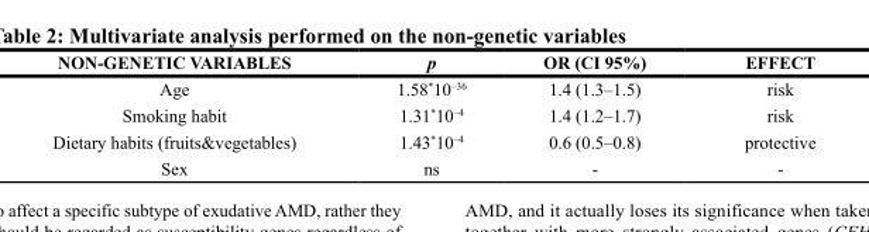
<table><thead><tr><td>NON-GENETIC VARIABLES</td><td>p</td><td>OR (CI 95%)</td><td>EFFECT</td></tr></thead><tbody><tr><td>Age</td><td>1.58*10<sup>–36</sup></td><td>1.4 (1.3–1.5)</td><td>risk</td></tr><tr><td>Smoking habit</td><td>1.31*10<sup>–4</sup></td><td>1.4 (1.2–1.7)</td><td>risk</td></tr><tr><td>Dietary habits (fruits&amp;vegetables)</td><td>1.43*10<sup>–4</sup></td><td>0.6 (0.5–0.8)</td><td>protective</td></tr><tr><td>Sex</td><td>ns</td><td>-</td><td>-</td></tr></tbody></table>